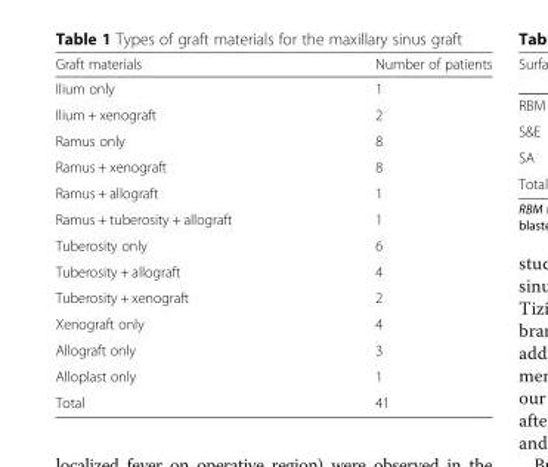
<table><thead><tr><td>Graft materials</td><td>Number of patients</td></tr></thead><tbody><tr><td>Ilium only</td><td>1</td></tr><tr><td>Ilium + xenograft</td><td>2</td></tr><tr><td>Ramus only</td><td>8</td></tr><tr><td>Ramus + xenograft</td><td>8</td></tr><tr><td>Ramus + allograft</td><td>1</td></tr><tr><td>Ramus + tuberosity + allograft</td><td>1</td></tr><tr><td>Tuberosity only</td><td>6</td></tr><tr><td>Tuberosity + allograft</td><td>4</td></tr><tr><td>Tuberosity + xenograft</td><td>2</td></tr><tr><td>Xenograft only</td><td>4</td></tr><tr><td>Allograft only</td><td>3</td></tr><tr><td>Alloplast only</td><td>1</td></tr><tr><td>Total</td><td>41</td></tr></tbody></table>